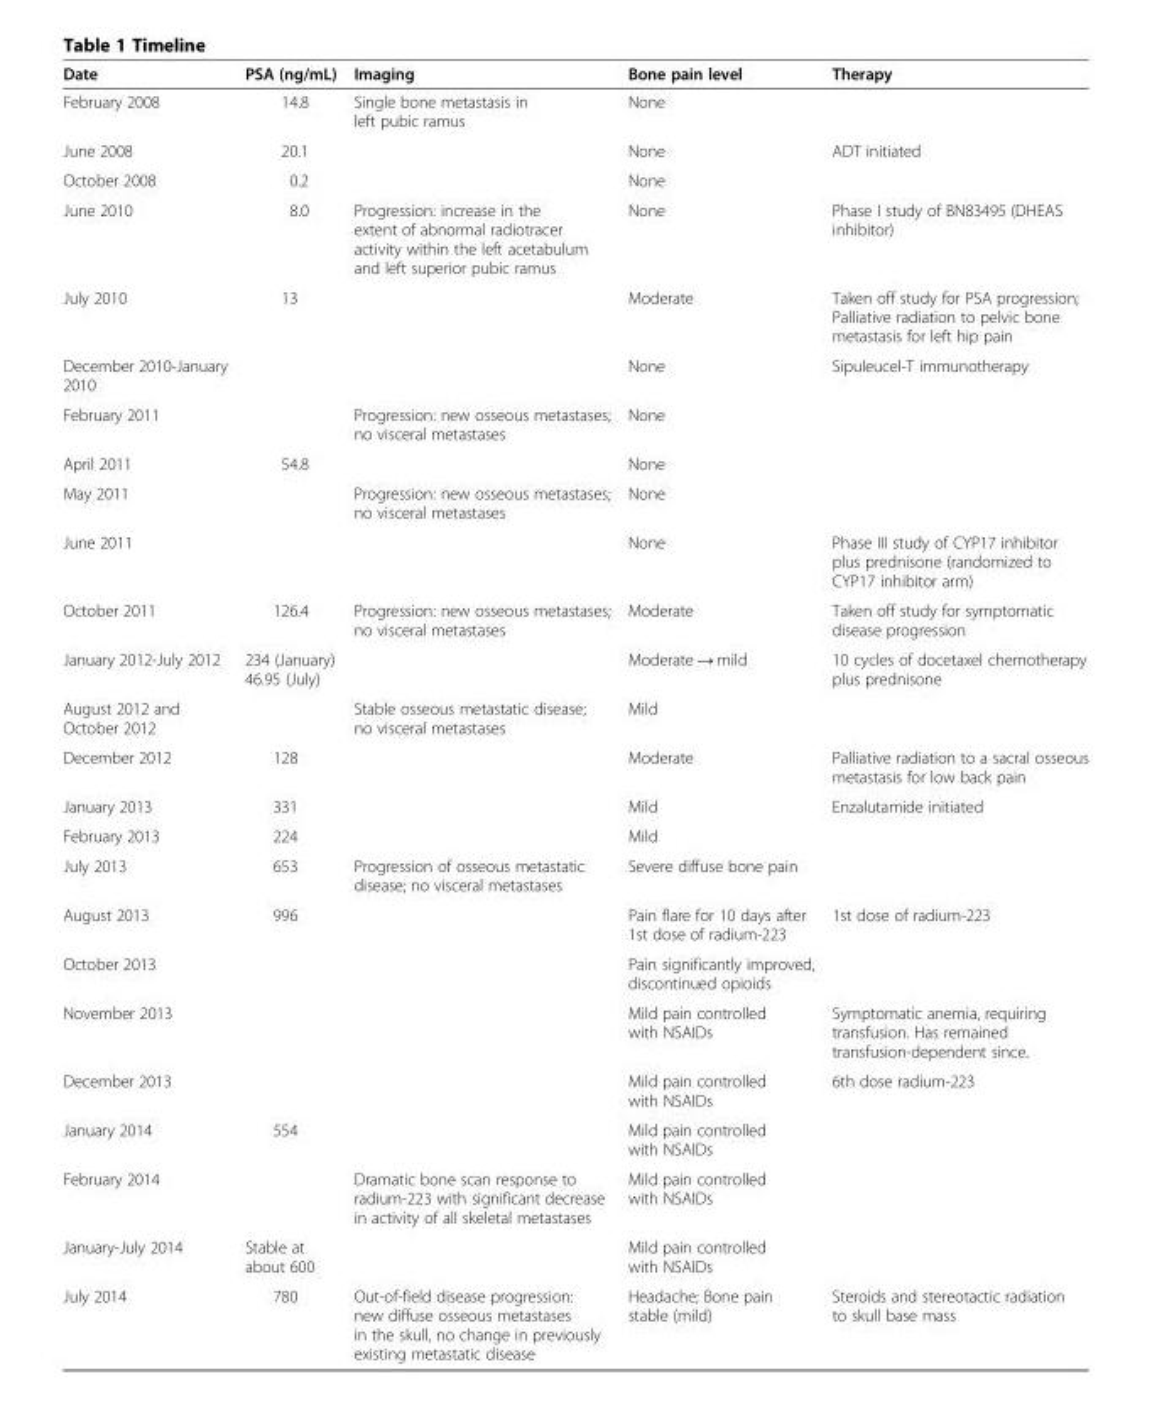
<table><thead><tr><td>Date</td><td>PSA (ng/mL)</td><td>Imaging</td><td>Bone pain level</td><td>Therapy</td></tr></thead><tbody><tr><td>February 2008</td><td>14.8</td><td>Single bone metastasis in left pubic ramus</td><td>None</td><td></td></tr><tr><td>June 2008</td><td>20.1</td><td></td><td>None</td><td>ADT initiated</td></tr><tr><td>October 2008</td><td>0.2</td><td></td><td>None</td><td></td></tr><tr><td>June 2010</td><td>8.0</td><td>Progression: increase in the extent of abnormal radiotracer activity within the left acetabulum and left superior pubic ramus</td><td>None</td><td>Phase I study of BN83495 (DHEAS inhibitor)</td></tr><tr><td>July 2010</td><td>13</td><td></td><td>Moderate</td><td>Taken off study for PSA progression; Palliative radiation to pelvic bone metastasis for left hip pain</td></tr><tr><td>December 2010-January 2010</td><td></td><td></td><td>None</td><td>Sipuleucel-T immunotherapy</td></tr><tr><td>February 2011</td><td></td><td>Progression: new osseous metastases; no visceral metastases</td><td>None</td><td></td></tr><tr><td>April 2011</td><td>54.8</td><td></td><td>None</td><td></td></tr><tr><td>May 2011</td><td></td><td>Progression: new osseous metastases; no visceral metastases</td><td>None</td><td></td></tr><tr><td>June 2011</td><td></td><td></td><td>None</td><td>Phase III study of CYP17 inhibitor plus prednisone (randomized to CYP17 inhibitor arm)</td></tr><tr><td>October 2011</td><td>126.4</td><td>Progression: new osseous metastases; no visceral metastases</td><td>Moderate</td><td>Taken off study for symptomatic disease progression</td></tr><tr><td>January 2012-July 2012</td><td>234 (January) 46.95 (July)</td><td></td><td>Moderate → mild</td><td>10 cycles of docetaxel chemotherapy plus prednisone</td></tr><tr><td>August 2012 and October 2012</td><td></td><td>Stable osseous metastatic disease; no visceral metastases</td><td>Mild</td><td></td></tr><tr><td>December 2012</td><td>128</td><td></td><td>Moderate</td><td>Palliative radiation to a sacral osseous metastasis for low back pain</td></tr><tr><td>January 2013</td><td>331</td><td></td><td>Mild</td><td>Enzalutamide initiated</td></tr><tr><td>February 2013</td><td>224</td><td></td><td>Mild</td><td></td></tr><tr><td>July 2013</td><td>653</td><td>Progression of osseous metastatic disease; no visceral metastases</td><td>Severe diffuse bone pain</td><td></td></tr><tr><td>August 2013</td><td>996</td><td></td><td>Pain flare for 10 days after 1st dose of radium-223</td><td>1st dose of radium-223</td></tr><tr><td>October 2013</td><td></td><td></td><td>Pain significantly improved, discontinued opioids</td><td></td></tr><tr><td>November 2013</td><td></td><td></td><td>Mild pain controlled with NSAIDs</td><td>Symptomatic anemia, requiring transfusion. Has remained transfusion-dependent since.</td></tr><tr><td>December 2013</td><td></td><td></td><td>Mild pain controlled with NSAIDs</td><td>6th dose radium-223</td></tr><tr><td>January 2014</td><td>554</td><td></td><td>Mild pain controlled with NSAIDs</td><td></td></tr><tr><td>February 2014</td><td></td><td>Dramatic bone scan response to radium-223 with significant decrease in activity of all skeletal metastases</td><td>Mild pain controlled with NSAIDs</td><td></td></tr><tr><td>January-July 2014</td><td>Stable at about 600</td><td></td><td>Mild pain controlled with NSAIDs</td><td></td></tr><tr><td>July 2014</td><td>780</td><td>Out-of-field disease progression: new diffuse osseous metastases in the skull, no change in previously existing metastatic disease</td><td>Headache; Bone pain stable (mild)</td><td>Steroids and stereotactic radiation to skull base mass</td></tr></tbody></table>